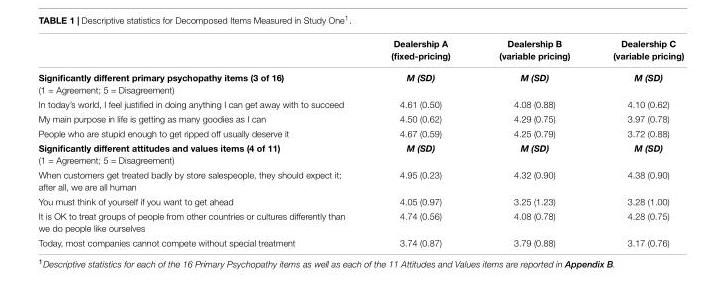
<table><thead><tr><td></td><td>Dealership A (fixed-pricing)</td><td>Dealership B (variable pricing)</td><td>Dealership C (variable pricing)</td></tr></thead><tbody><tr><td>Significantly different primary psychopathy items (3 of 16) (1 = Agreement; 5 = Disagreement)</td><td>M (SD)</td><td>M (SD)</td><td>M (SD)</td></tr><tr><td>In today’s world, I feel justified in doing anything I can get away with to succeed</td><td>4.61 (0.50)</td><td>4.08 (0.88)</td><td>4.10 (0.62)</td></tr><tr><td>My main purpose in life is getting as many goodies as I can</td><td>4.50 (0.62)</td><td>4.29 (0.75)</td><td>3.97 (0.78)</td></tr><tr><td>People who are stupid enough to get ripped off usually deserve it</td><td>4.67 (0.59)</td><td>4.25 (0.79)</td><td>3.72 (0.88)</td></tr><tr><td>Significantly different attitudes and values items (4 of 11) (1 = Agreement; 5 = Disagreement)</td><td>M (SD)</td><td>M (SD)</td><td>M (SD)</td></tr><tr><td>When customers get treated badly by store salespeople, they should expect it; after all, we are all human</td><td>4.95 (0.23)</td><td>4.32 (0.90)</td><td>4.38 (0.90)</td></tr><tr><td>You must think of yourself if you want to get ahead</td><td>4.05 (0.97)</td><td>3.25 (1.23)</td><td>3.28 (1.00)</td></tr><tr><td>It is OK to treat groups of people from other countries or cultures differently than we do people like ourselves</td><td>4.74 (0.56)</td><td>4.08 (0.78)</td><td>4.28 (0.75)</td></tr><tr><td>Today, most companies cannot compete without special treatment</td><td>3.74 (0.87)</td><td>3.79 (0.88)</td><td>3.17 (0.76)</td></tr></tbody></table>